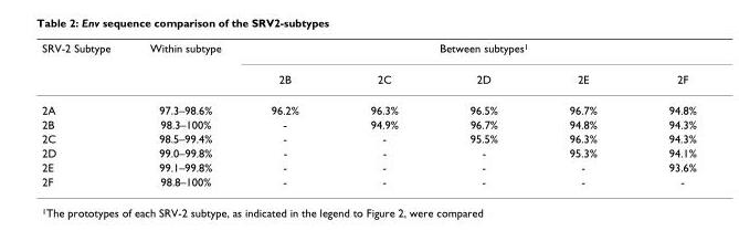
<table><thead><tr><td rowspan="2">SRV-2 Subtype</td><td rowspan="2">Within subtype</td><td colspan="5">Between subtypes1</td></tr><tr><td>2B</td><td>2C</td><td>2D</td><td>2E</td><td>2F</td></tr></thead><tbody><tr><td>2A</td><td>97.3–98.6%</td><td>96.2%</td><td>96.3%</td><td>96.5%</td><td>96.7%</td><td>94.8%</td></tr><tr><td>2B</td><td>98.3–100%</td><td>-</td><td>94.9%</td><td>96.7%</td><td>94.8%</td><td>94.3%</td></tr><tr><td>2C</td><td>98.5–99.4%</td><td>-</td><td>-</td><td>95.5%</td><td>96.3%</td><td>94.3%</td></tr><tr><td>2D</td><td>99.0–99.8%</td><td>-</td><td>-</td><td>-</td><td>95.3%</td><td>94.1%</td></tr><tr><td>2E</td><td>99.1–99.8%</td><td>-</td><td>-</td><td>-</td><td>-</td><td>93.6%</td></tr><tr><td>2F</td><td>98.8–100%</td><td>-</td><td>-</td><td>-</td><td>-</td><td>-</td></tr></tbody></table>